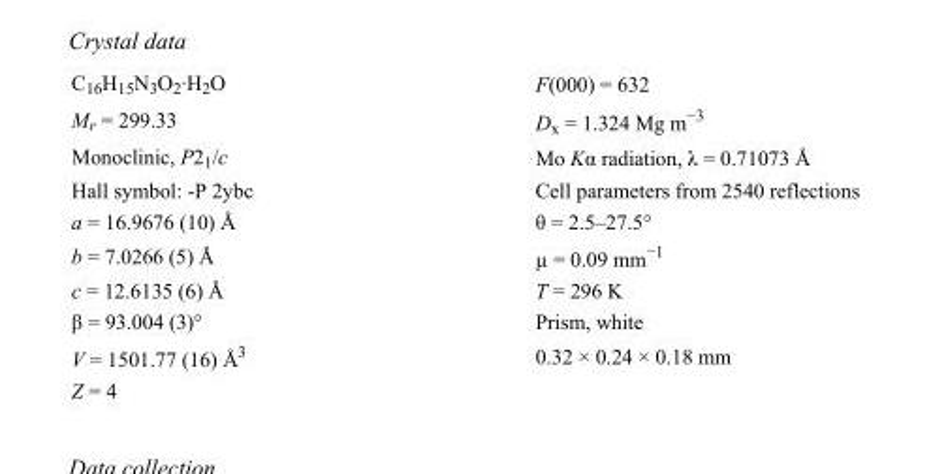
<table><tbody><tr><td>C<sub>16</sub>H<sub>15</sub>N<sub>3</sub>O<sub>2</sub>·H<sub>2</sub>O</td><td>F(000) = 632</td></tr><tr><td>M<sub>r</sub> = 299.33</td><td>D<sub>x</sub> = 1.324 Mg m<sup>−3</sup></td></tr><tr><td>Monoclinic, P2<sub>1</sub>/c</td><td>Mo Kα radiation, λ = 0.71073 Å</td></tr><tr><td>Hall symbol: -P 2ybc</td><td>Cell parameters from 2540 reflections</td></tr><tr><td>a = 16.9676 (10) Å</td><td>θ = 2.5–27.5°</td></tr><tr><td>b = 7.0266 (5) Å</td><td>µ = 0.09 mm<sup>−1</sup></td></tr><tr><td>c = 12.6135 (6) Å</td><td>T = 296 K</td></tr><tr><td>β = 93.004 (3)°</td><td>Prism, white</td></tr><tr><td>V = 1501.77 (16) Å<sup>3</sup></td><td>0.32 × 0.24 × 0.18 mm</td></tr><tr><td>Z = 4</td><td></td></tr></tbody></table>